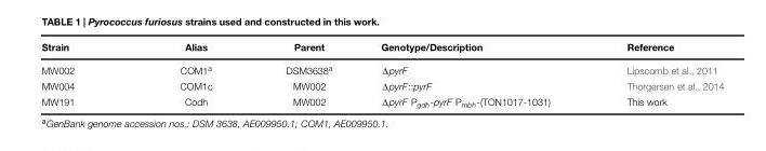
<table><thead><tr><td>Strain</td><td>Alias</td><td>Parent</td><td>Genotype/Description</td><td>Reference</td></tr></thead><tbody><tr><td>MW002</td><td>COM1<sup>a</sup></td><td>DSM3638<sup>a</sup></td><td>ΔpyrF</td><td>Lipscomb et al., 2011</td></tr><tr><td>MW004</td><td>COM1c</td><td>MW002</td><td>ΔpyrF::pyrF</td><td>Thorgersen et al., 2014</td></tr><tr><td>MW191</td><td>Codh</td><td>MW002</td><td>ΔpyrF P<sub>gdh</sub>-pyrF P<sub>mbh</sub>-(TON1017-1031)</td><td>This work</td></tr></tbody></table>